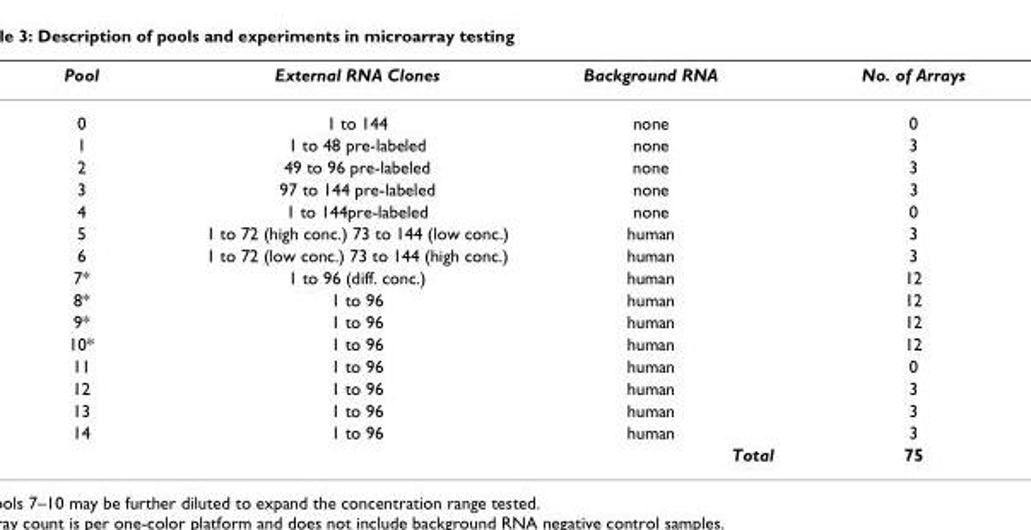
<table><thead><tr><td>Pool</td><td>External RNA Clones</td><td>Background RNA</td><td>No. of Arrays</td></tr></thead><tbody><tr><td>0</td><td>1 to 144</td><td>none</td><td>0</td></tr><tr><td>1</td><td>1 to 48 pre-labeled</td><td>none</td><td>3</td></tr><tr><td>2</td><td>49 to 96 pre-labeled</td><td>none</td><td>3</td></tr><tr><td>3</td><td>97 to 144 pre-labeled</td><td>none</td><td>3</td></tr><tr><td>4</td><td>1 to 144pre-labeled</td><td>none</td><td>0</td></tr><tr><td>5</td><td>1 to 72 (high conc.) 73 to 144 (low conc.)</td><td>human</td><td>3</td></tr><tr><td>6</td><td>1 to 72 (low conc.) 73 to 144 (high conc.)</td><td>human</td><td>3</td></tr><tr><td>7*</td><td>1 to 96 (diff. conc.)</td><td>human</td><td>12</td></tr><tr><td>8*</td><td>1 to 96</td><td>human</td><td>12</td></tr><tr><td>9*</td><td>1 to 96</td><td>human</td><td>12</td></tr><tr><td>10*</td><td>1 to 96</td><td>human</td><td>12</td></tr><tr><td>11</td><td>1 to 96</td><td>human</td><td>0</td></tr><tr><td>12</td><td>1 to 96</td><td>human</td><td>3</td></tr><tr><td>13</td><td>1 to 96</td><td>human</td><td>3</td></tr><tr><td rowspan="2">14</td><td>1 to 96</td><td>human</td><td>3</td></tr><tr><td></td><td>Total</td><td>75</td></tr></tbody></table>